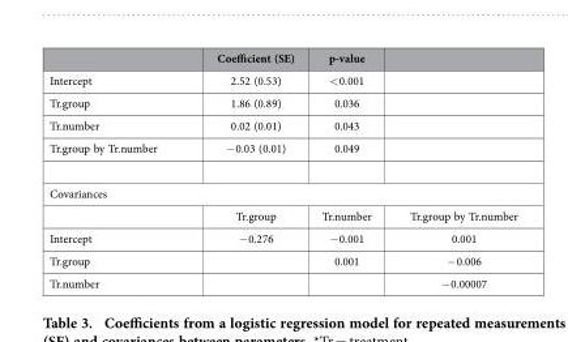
<table><thead><tr><td></td><td>Coefficient (SE)</td><td>p-value</td><td></td></tr></thead><tbody><tr><td>Intercept</td><td>2.52 (0.53)</td><td>&lt; 0.001</td><td></td></tr><tr><td>Tr.group</td><td>1.86 (0.89)</td><td>0.036</td><td></td></tr><tr><td>Tr.number</td><td>0.02 (0.01)</td><td>0.043</td><td></td></tr><tr><td>Tr.group by Tr.number</td><td>− 0.03 (0.01)</td><td>0.049</td><td></td></tr><tr><td colspan="4">Covariances</td></tr><tr><td></td><td>Tr.group</td><td>Tr.number</td><td>Tr.group by Tr.number</td></tr><tr><td>Intercept</td><td>− 0.276</td><td>− 0.001</td><td>0.001</td></tr><tr><td>Tr.group</td><td></td><td>0.001</td><td>− 0.006</td></tr><tr><td>Tr.number</td><td></td><td></td><td>− 0.00007</td></tr></tbody></table>